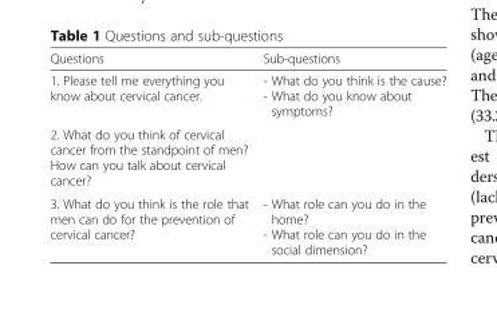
<table><thead><tr><td>Questions</td><td>Sub-questions</td></tr></thead><tbody><tr><td>1. Please tell me everything you know about cervical cancer.</td><td>- What do you think is the cause? - What do you know about symptoms?</td></tr><tr><td colspan="2">2. What do you think of cervical cancer from the standpoint of men? How can you talk about cervical cancer?</td></tr><tr><td>3. What do you think is the role that men can do for the prevention of cervical cancer?</td><td>- What role can you do in the home? - What role can you do in the social dimension?</td></tr></tbody></table>